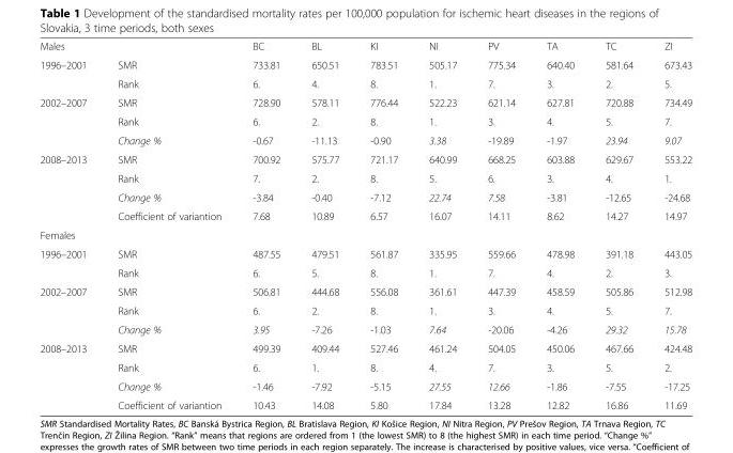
<table><tbody><tr><td>Males</td><td></td><td>BC</td><td>BL</td><td>KI</td><td>NI</td><td>PV</td><td>TA</td><td>TC</td><td>ZI</td></tr><tr><td rowspan="2">1996–2001</td><td>SMR</td><td>733.81</td><td>650.51</td><td>783.51</td><td>505.17</td><td>775.34</td><td>640.40</td><td>581.64</td><td>673.43</td></tr><tr><td>Rank</td><td>6.</td><td>4.</td><td>8.</td><td>1.</td><td>7.</td><td>3.</td><td>2.</td><td>5.</td></tr><tr><td rowspan="3">2002–2007</td><td>SMR</td><td>728.90</td><td>578.11</td><td>776.44</td><td>522.23</td><td>621.14</td><td>627.81</td><td>720.88</td><td>734.49</td></tr><tr><td>Rank</td><td>6.</td><td>2.</td><td>8.</td><td>1.</td><td>3.</td><td>4.</td><td>5.</td><td>7.</td></tr><tr><td>Change %</td><td>-0.67</td><td>-11.13</td><td>-0.90</td><td>3.38</td><td>-19.89</td><td>-1.97</td><td>23.94</td><td>9.07</td></tr><tr><td rowspan="4">2008–2013</td><td>SMR</td><td>700.92</td><td>575.77</td><td>721.17</td><td>640.99</td><td>668.25</td><td>603.88</td><td>629.67</td><td>553.22</td></tr><tr><td>Rank</td><td>7.</td><td>2.</td><td>8.</td><td>5.</td><td>6.</td><td>3.</td><td>4.</td><td>1.</td></tr><tr><td>Change %</td><td>-3.84</td><td>-0.40</td><td>-7.12</td><td>22.74</td><td>7.58</td><td>-3.81</td><td>-12.65</td><td>-24.68</td></tr><tr><td>Coefficient of variantion</td><td>7.68</td><td>10.89</td><td>6.57</td><td>16.07</td><td>14.11</td><td>8.62</td><td>14.27</td><td>14.97</td></tr><tr><td colspan="10">Females</td></tr><tr><td rowspan="2">1996–2001</td><td>SMR</td><td>487.55</td><td>479.51</td><td>561.87</td><td>335.95</td><td>559.66</td><td>478.98</td><td>391.18</td><td>443.05</td></tr><tr><td>Rank</td><td>6.</td><td>5.</td><td>8.</td><td>1.</td><td>7.</td><td>4.</td><td>2.</td><td>3.</td></tr><tr><td rowspan="3">2002–2007</td><td>SMR</td><td>506.81</td><td>444.68</td><td>556.08</td><td>361.61</td><td>447.39</td><td>458.59</td><td>505.86</td><td>512.98</td></tr><tr><td>Rank</td><td>6.</td><td>2.</td><td>8.</td><td>1.</td><td>3.</td><td>4.</td><td>5.</td><td>7.</td></tr><tr><td>Change %</td><td>3.95</td><td>-7.26</td><td>-1.03</td><td>7.64</td><td>-20.06</td><td>-4.26</td><td>29.32</td><td>15.78</td></tr><tr><td rowspan="4">2008–2013</td><td>SMR</td><td>499.39</td><td>409.44</td><td>527.46</td><td>461.24</td><td>504.05</td><td>450.06</td><td>467.66</td><td>424.48</td></tr><tr><td>Rank</td><td>6.</td><td>1.</td><td>8.</td><td>4.</td><td>7.</td><td>3.</td><td>5.</td><td>2.</td></tr><tr><td>Change %</td><td>-1.46</td><td>-7.92</td><td>-5.15</td><td>27.55</td><td>12.66</td><td>-1.86</td><td>-7.55</td><td>-17.25</td></tr><tr><td>Coefficient of variantion</td><td>10.43</td><td>14.08</td><td>5.80</td><td>17.84</td><td>13.28</td><td>12.82</td><td>16.86</td><td>11.69</td></tr></tbody></table>